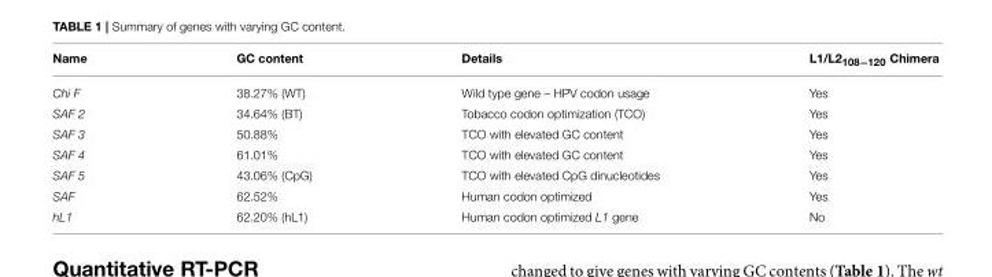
<table><thead><tr><td>Name</td><td>GC content</td><td>Details</td><td>L1/L2<sub>108−120</sub> Chimera</td></tr></thead><tbody><tr><td>Chi F</td><td>38.27% (WT)</td><td>Wild type gene – HPV codon usage</td><td>Yes</td></tr><tr><td>SAF 2</td><td>34.64% (BT)</td><td>Tobacco codon optimization (TCO)</td><td>Yes</td></tr><tr><td>SAF 3</td><td>50.88%</td><td>TCO with elevated GC content</td><td>Yes</td></tr><tr><td>SAF 4</td><td>61.01%</td><td>TCO with elevated GC content</td><td>Yes</td></tr><tr><td>SAF 5</td><td>43.06% (CpG)</td><td>TCO with elevated CpG dinucleotides</td><td>Yes</td></tr><tr><td>SAF</td><td>62.52%</td><td>Human codon optimized</td><td>Yes</td></tr><tr><td>hL1</td><td>62.20% (hL1)</td><td>Human codon optimized L1 gene</td><td>No</td></tr></tbody></table>